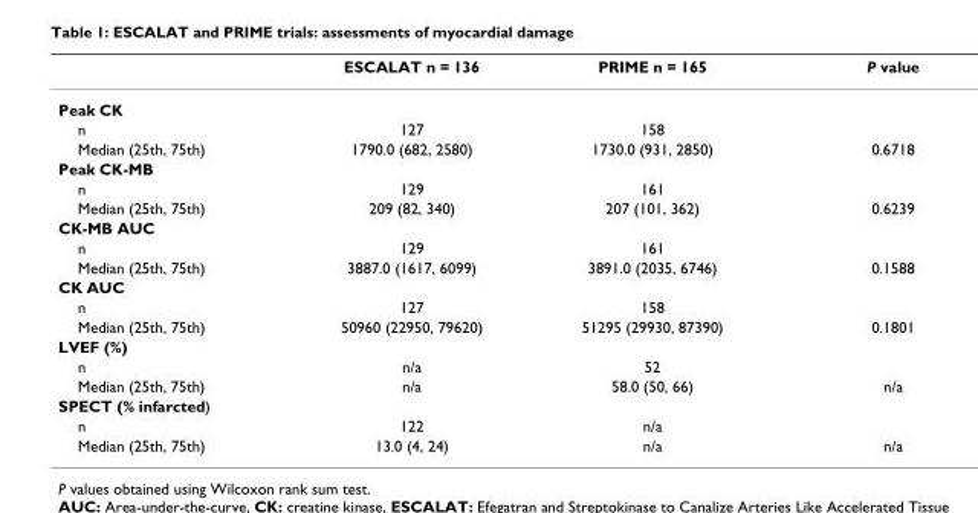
<table><thead><tr><td></td><td>ESCALAT n = 136</td><td>PRIME n = 165</td><td>P value</td></tr></thead><tbody><tr><td colspan="4">Peak CK</td></tr><tr><td>n</td><td>127</td><td>158</td><td></td></tr><tr><td>Median (25th, 75th)</td><td>1790.0 (682, 2580)</td><td>1730.0 (931, 2850)</td><td>0.6718</td></tr><tr><td colspan="4">Peak CK-MB</td></tr><tr><td>n</td><td>129</td><td>161</td><td></td></tr><tr><td>Median (25th, 75th)</td><td>209 (82, 340)</td><td>207 (101, 362)</td><td>0.6239</td></tr><tr><td colspan="4">CK-MB AUC</td></tr><tr><td>n</td><td>129</td><td>161</td><td></td></tr><tr><td>Median (25th, 75th)</td><td>3887.0 (1617, 6099)</td><td>3891.0 (2035, 6746)</td><td>0.1588</td></tr><tr><td colspan="4">CK AUC</td></tr><tr><td>n</td><td>127</td><td>158</td><td></td></tr><tr><td>Median (25th, 75th)</td><td>50960 (22950, 79620)</td><td>51295 (29930, 87390)</td><td>0.1801</td></tr><tr><td colspan="4">LVEF (%)</td></tr><tr><td>n</td><td>n/a</td><td>52</td><td></td></tr><tr><td>Median (25th, 75th)</td><td>n/a</td><td>58.0 (50, 66)</td><td>n/a</td></tr><tr><td colspan="4">SPECT (% infarcted)</td></tr><tr><td>n</td><td>122</td><td>n/a</td><td></td></tr><tr><td>Median (25th, 75th)</td><td>13.0 (4, 24)</td><td>n/a</td><td>n/a</td></tr></tbody></table>